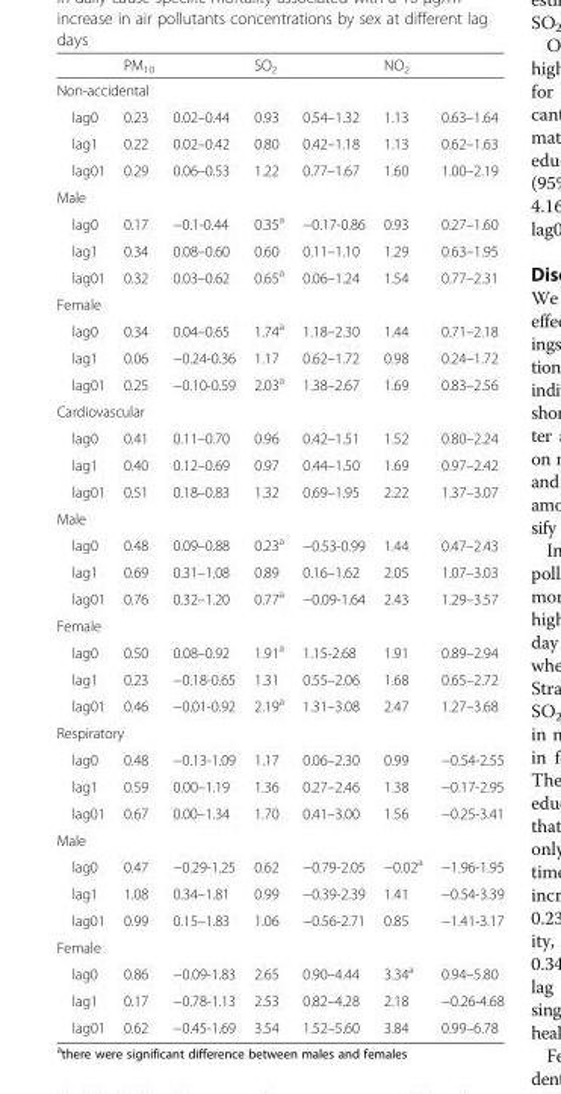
<table><thead><tr><td></td><td>PM<sub>10</sub></td><td></td><td>SO<sub>2</sub></td><td></td><td>NO<sub>2</sub></td><td></td></tr></thead><tbody><tr><td colspan="7">Non-accidental</td></tr><tr><td>lag0</td><td>0.23</td><td>0.02–0.44</td><td>0.93</td><td>0.54–1.32</td><td>1.13</td><td>0.63–1.64</td></tr><tr><td>lag1</td><td>0.22</td><td>0.02–0.42</td><td>0.80</td><td>0.42–1.18</td><td>1.13</td><td>0.62–1.63</td></tr><tr><td>lag01</td><td>0.29</td><td>0.06–0.53</td><td>1.22</td><td>0.77–1.67</td><td>1.60</td><td>1.00–2.19</td></tr><tr><td colspan="7">Male</td></tr><tr><td>lag0</td><td>0.17</td><td>−0.1-0.44</td><td>0.35<sup>a</sup></td><td>−0.17-0.86</td><td>0.93</td><td>0.27–1.60</td></tr><tr><td>lag1</td><td>0.34</td><td>0.08–0.60</td><td>0.60</td><td>0.11–1.10</td><td>1.29</td><td>0.63–1.95</td></tr><tr><td>lag01</td><td>0.32</td><td>0.03–0.62</td><td>0.65<sup>a</sup></td><td>0.06–1.24</td><td>1.54</td><td>0.77–2.31</td></tr><tr><td colspan="7">Female</td></tr><tr><td>lag0</td><td>0.34</td><td>0.04–0.65</td><td>1.74<sup>a</sup></td><td>1.18–2.30</td><td>1.44</td><td>0.71–2.18</td></tr><tr><td>lag1</td><td>0.06</td><td>−0.24-0.36</td><td>1.17</td><td>0.62–1.72</td><td>0.98</td><td>0.24–1.72</td></tr><tr><td>lag01</td><td>0.25</td><td>−0.10-0.59</td><td>2.03<sup>a</sup></td><td>1.38–2.67</td><td>1.69</td><td>0.83–2.56</td></tr><tr><td colspan="7">Cardiovascular</td></tr><tr><td>lag0</td><td>0.41</td><td>0.11–0.70</td><td>0.96</td><td>0.42–1.51</td><td>1.52</td><td>0.80–2.24</td></tr><tr><td>lag1</td><td>0.40</td><td>0.12–0.69</td><td>0.97</td><td>0.44–1.50</td><td>1.69</td><td>0.97–2.42</td></tr><tr><td>lag01</td><td>0.51</td><td>0.18–0.83</td><td>1.32</td><td>0.69–1.95</td><td>2.22</td><td>1.37–3.07</td></tr><tr><td colspan="7">Male</td></tr><tr><td>lag0</td><td>0.48</td><td>0.09–0.88</td><td>0.23<sup>a</sup></td><td>−0.53-0.99</td><td>1.44</td><td>0.47–2.43</td></tr><tr><td>lag1</td><td>0.69</td><td>0.31–1.08</td><td>0.89</td><td>0.16–1.62</td><td>2.05</td><td>1.07–3.03</td></tr><tr><td>lag01</td><td>0.76</td><td>0.32–1.20</td><td>0.77<sup>a</sup></td><td>−0.09-1.64</td><td>2.43</td><td>1.29–3.57</td></tr><tr><td colspan="7">Female</td></tr><tr><td>lag0</td><td>0.50</td><td>0.08–0.92</td><td>1.91<sup>a</sup></td><td>1.15-2.68</td><td>1.91</td><td>0.89–2.94</td></tr><tr><td>lag1</td><td>0.23</td><td>−0.18-0.65</td><td>1.31</td><td>0.55–2.06</td><td>1.68</td><td>0.65–2.72</td></tr><tr><td>lag01</td><td>0.46</td><td>−0.01-0.92</td><td>2.19<sup>a</sup></td><td>1.31–3.08</td><td>2.47</td><td>1.27–3.68</td></tr><tr><td colspan="7">Respiratory</td></tr><tr><td>lag0</td><td>0.48</td><td>−0.13-1.09</td><td>1.17</td><td>0.06–2.30</td><td>0.99</td><td>−0.54-2.55</td></tr><tr><td>lag1</td><td>0.59</td><td>0.00–1.19</td><td>1.36</td><td>0.27–2.46</td><td>1.38</td><td>−0.17-2.95</td></tr><tr><td>lag01</td><td>0.67</td><td>0.00–1.34</td><td>1.70</td><td>0.41–3.00</td><td>1.56</td><td>−0.25-3.41</td></tr><tr><td colspan="7">Male</td></tr><tr><td>lag0</td><td>0.47</td><td>−0.29-1.25</td><td>0.62</td><td>−0.79-2.05</td><td>−0.02<sup>a</sup></td><td>−1.96-1.95</td></tr><tr><td>lag1</td><td>1.08</td><td>0.34–1.81</td><td>0.99</td><td>−0.39-2.39</td><td>1.41</td><td>−0.54-3.39</td></tr><tr><td>lag01</td><td>0.99</td><td>0.15–1.83</td><td>1.06</td><td>−0.56-2.71</td><td>0.85</td><td>−1.41-3.17</td></tr><tr><td colspan="7">Female</td></tr><tr><td>lag0</td><td>0.86</td><td>−0.09-1.83</td><td>2.65</td><td>0.90–4.44</td><td>3.34<sup>a</sup></td><td>0.94–5.80</td></tr><tr><td>lag1</td><td>0.17</td><td>−0.78-1.13</td><td>2.53</td><td>0.82–4.28</td><td>2.18</td><td>−0.26-4.68</td></tr><tr><td>lag01</td><td>0.62</td><td>−0.45-1.69</td><td>3.54</td><td>1.52–5.60</td><td>3.84</td><td>0.99–6.78</td></tr></tbody></table>